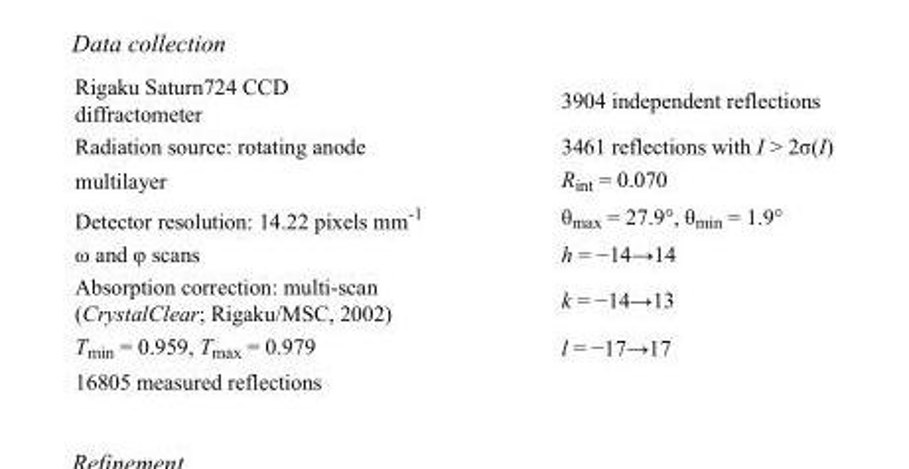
<table><tbody><tr><td>Rigaku Saturn724 CCD diffractometer</td><td>3904 independent reflections</td></tr><tr><td>Radiation source: rotating anode</td><td>3461 reflections with I &gt; 2σ(I)</td></tr><tr><td>multilayer</td><td>R<sub>int</sub> = 0.070</td></tr><tr><td>Detector resolution: 14.22 pixels mm<sup>-1</sup></td><td>θ<sub>max</sub> = 27.9°, θ<sub>min</sub> = 1.9°</td></tr><tr><td>ω and φ scans</td><td>h = −14→14</td></tr><tr><td>Absorption correction: multi-scan (CrystalClear; Rigaku/MSC, 2002)</td><td>k = −14→13</td></tr><tr><td>T<sub>min</sub> = 0.959, T<sub>max</sub> = 0.979</td><td>l = −17→17</td></tr><tr><td>16805 measured reflections</td><td></td></tr></tbody></table>